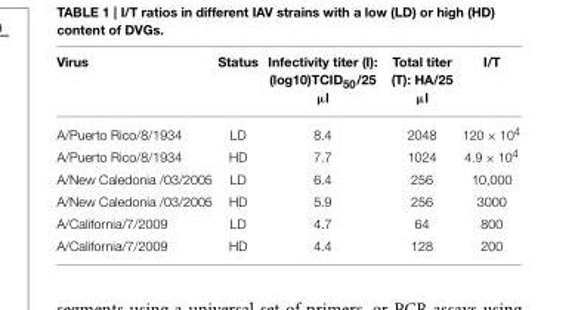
<table><thead><tr><td>Virus</td><td>Status</td><td>Infectivity titer (I): (log10)TCID<sub>50</sub>/25 µl</td><td>Total titer (T): HA/25 µl</td><td>I/T</td></tr></thead><tbody><tr><td>A/Puerto Rico/8/1934</td><td>LD</td><td>8.4</td><td>2048</td><td>120 × 10<sup>4</sup></td></tr><tr><td>A/Puerto Rico/8/1934</td><td>HD</td><td>7.7</td><td>1024</td><td>4.9 × 10<sup>4</sup></td></tr><tr><td>A/New Caledonia /03/2005</td><td>LD</td><td>6.4</td><td>256</td><td>10,000</td></tr><tr><td>A/New Caledonia /03/2005</td><td>HD</td><td>5.9</td><td>256</td><td>3000</td></tr><tr><td>A/California/7/2009</td><td>LD</td><td>4.7</td><td>64</td><td>800</td></tr><tr><td>A/California/7/2009</td><td>HD</td><td>4.4</td><td>128</td><td>200</td></tr></tbody></table>